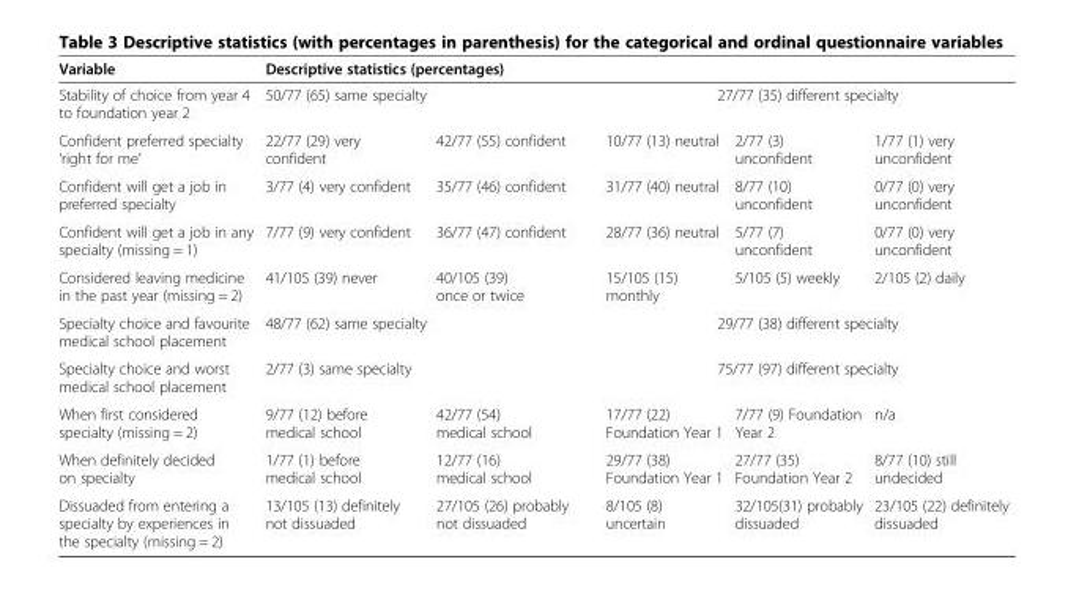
<table><thead><tr><td>Variable</td><td colspan="6">Descriptive statistics (percentages)</td></tr></thead><tbody><tr><td>Stability of choice from year 4 to foundation year 2</td><td colspan="3">50/77 (65) same specialty</td><td colspan="3">27/77 (35) different specialty</td></tr><tr><td>Confident preferred specialty ‘right for me’</td><td>22/77 (29) very confident</td><td>42/77 (55) confident</td><td colspan="2">10/77 (13) neutral</td><td>2/77 (3) unconfident</td><td>1/77 (1) very unconfident</td></tr><tr><td>Confident will get a job in preferred specialty</td><td>3/77 (4) very confident</td><td>35/77 (46) confident</td><td colspan="2">31/77 (40) neutral</td><td>8/77 (10) unconfident</td><td>0/77 (0) very unconfident</td></tr><tr><td>Confident will get a job in any specialty (missing = 1)</td><td>7/77 (9) very confident</td><td>36/77 (47) confident</td><td colspan="2">28/77 (36) neutral</td><td>5/77 (7) unconfident</td><td>0/77 (0) very unconfident</td></tr><tr><td>Considered leaving medicine in the past year (missing = 2)</td><td>41/105 (39) never</td><td>40/105 (39) once or twice</td><td>15/105 (15) monthly</td><td></td><td>5/105 (5) weekly</td><td>2/105 (2) daily</td></tr><tr><td>Specialty choice and favourite medical school placement</td><td colspan="3">48/77 (62) same specialty</td><td colspan="3">29/77 (38) different specialty</td></tr><tr><td>Specialty choice and worst medical school placement</td><td colspan="3">2/77 (3) same specialty</td><td colspan="3">75/77 (97) different specialty</td></tr><tr><td>When first considered specialty (missing = 2)</td><td>9/77 (12) before medical school</td><td>42/77 (54) medical school</td><td colspan="2">17/77 (22) Foundation Year 1</td><td>7/77 (9) Foundation Year 2</td><td>n/a</td></tr><tr><td>When definitely decided on specialty</td><td>1/77 (1) before medical school</td><td>12/77 (16) medical school</td><td colspan="2">29/77 (38) Foundation Year 1</td><td>27/77 (35) Foundation Year 2</td><td>8/77 (10) still undecided</td></tr><tr><td>Dissuaded from entering a specialty by experiences in the specialty (missing = 2)</td><td>13/105 (13) definitely not dissuaded</td><td>27/105 (26) probably not dissuaded</td><td colspan="2">8/105 (8) uncertain</td><td>32/105(31) probably dissuaded</td><td>23/105 (22) definitely dissuaded</td></tr></tbody></table>